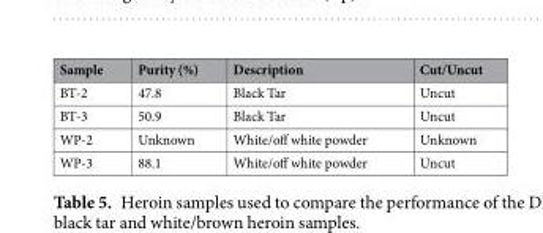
<table><thead><tr><td>Sample</td><td>Purity (%)</td><td>Description</td><td>Cut/Uncut</td></tr></thead><tbody><tr><td>BT-2</td><td>47.8</td><td>Black Tar</td><td>Uncut</td></tr><tr><td>BT-3</td><td>50.9</td><td>Black Tar</td><td>Uncut</td></tr><tr><td>WP-2</td><td>Unknown</td><td>White/off white powder</td><td>Unknown</td></tr><tr><td>WP-3</td><td>88.1</td><td>White/off white powder</td><td>Uncut</td></tr></tbody></table>